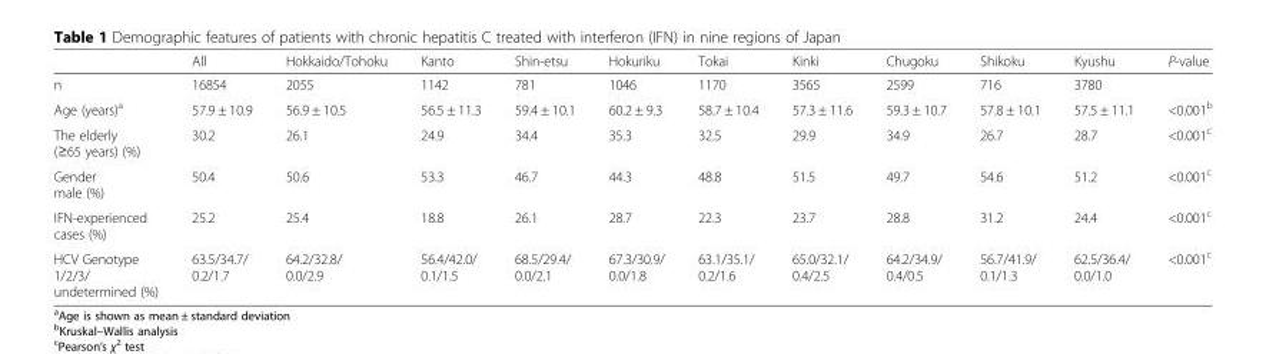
<table><thead><tr><td></td><td>All</td><td>Hokkaido/Tohoku</td><td>Kanto</td><td>Shin-etsu</td><td>Hokuriku</td><td>Tokai</td><td>Kinki</td><td>Chugoku</td><td>Shikoku</td><td>Kyushu</td><td>P-value</td></tr></thead><tbody><tr><td>n</td><td>16854</td><td>2055</td><td>1142</td><td>781</td><td>1046</td><td>1170</td><td>3565</td><td>2599</td><td>716</td><td>3780</td><td></td></tr><tr><td>Age (years)<sup>a</sup></td><td>57.9 ± 10.9</td><td>56.9 ± 10.5</td><td>56.5 ± 11.3</td><td>59.4 ± 10.1</td><td>60.2 ± 9.3</td><td>58.7 ± 10.4</td><td>57.3 ± 11.6</td><td>59.3 ± 10.7</td><td>57.8 ± 10.1</td><td>57.5 ± 11.1</td><td>&lt;0.001<sup>b</sup></td></tr><tr><td>The elderly (≥65 years) (%)</td><td>30.2</td><td>26.1</td><td>24.9</td><td>34.4</td><td>35.3</td><td>32.5</td><td>29.9</td><td>34.9</td><td>26.7</td><td>28.7</td><td>&lt;0.001<sup>c</sup></td></tr><tr><td>Gender male (%)</td><td>50.4</td><td>50.6</td><td>53.3</td><td>46.7</td><td>44.3</td><td>48.8</td><td>51.5</td><td>49.7</td><td>54.6</td><td>51.2</td><td>&lt;0.001<sup>c</sup></td></tr><tr><td>IFN-experienced cases (%)</td><td>25.2</td><td>25.4</td><td>18.8</td><td>26.1</td><td>28.7</td><td>22.3</td><td>23.7</td><td>28.8</td><td>31.2</td><td>24.4</td><td>&lt;0.001<sup>c</sup></td></tr><tr><td>HCV Genotype 1/2/3/ undetermined (%)</td><td>63.5/34.7/ 0.2/1.7</td><td>64.2/32.8/ 0.0/2.9</td><td>56.4/42.0/ 0.1/1.5</td><td>68.5/29.4/ 0.0/2.1</td><td>67.3/30.9/ 0.0/1.8</td><td>63.1/35.1/ 0.2/1.6</td><td>65.0/32.1/ 0.4/2.5</td><td>64.2/34.9/ 0.4/0.5</td><td>56.7/41.9/ 0.1/1.3</td><td>62.5/36.4/ 0.0/1.0</td><td>&lt;0.001<sup>c</sup></td></tr></tbody></table>